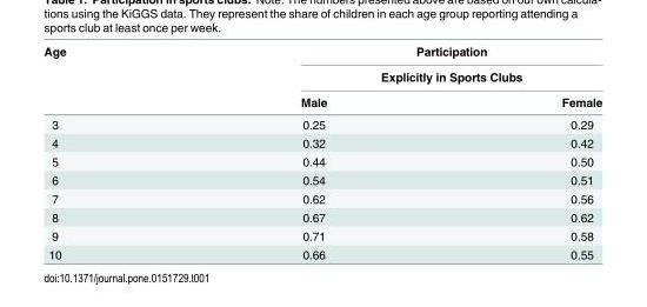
<table><thead><tr><td rowspan="3">Age</td><td rowspan="2" colspan="2">Participation Explicitly in Sports Clubs</td></tr><tr></tr><tr><td>Male</td><td>Female</td></tr></thead><tbody><tr><td>3</td><td>0.25</td><td>0.29</td></tr><tr><td>4</td><td>0.32</td><td>0.42</td></tr><tr><td>5</td><td>0.44</td><td>0.50</td></tr><tr><td>6</td><td>0.54</td><td>0.51</td></tr><tr><td>7</td><td>0.62</td><td>0.56</td></tr><tr><td>8</td><td>0.67</td><td>0.62</td></tr><tr><td>9</td><td>0.71</td><td>0.58</td></tr><tr><td>10</td><td>0.66</td><td>0.55</td></tr></tbody></table>